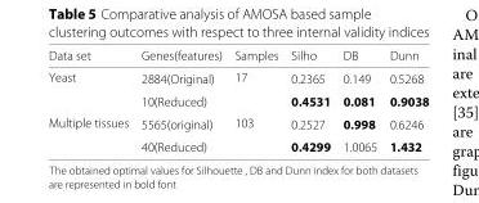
<table><thead><tr><td>Data set</td><td>Genes(features)</td><td>Samples</td><td>Silho</td><td>DB</td><td>Dunn</td></tr></thead><tbody><tr><td rowspan="2">Yeast</td><td>2884(Original)</td><td>17</td><td>0.2365</td><td>0.149</td><td>0.5268</td></tr><tr><td>10(Reduced)</td><td></td><td>0.4531</td><td>0.081</td><td>0.9038</td></tr><tr><td rowspan="2">Multiple tissues</td><td>5565(original)</td><td>103</td><td>0.2527</td><td>0.998</td><td>0.6246</td></tr><tr><td>40(Reduced)</td><td></td><td>0.4299</td><td>1.0065</td><td>1.432</td></tr></tbody></table>